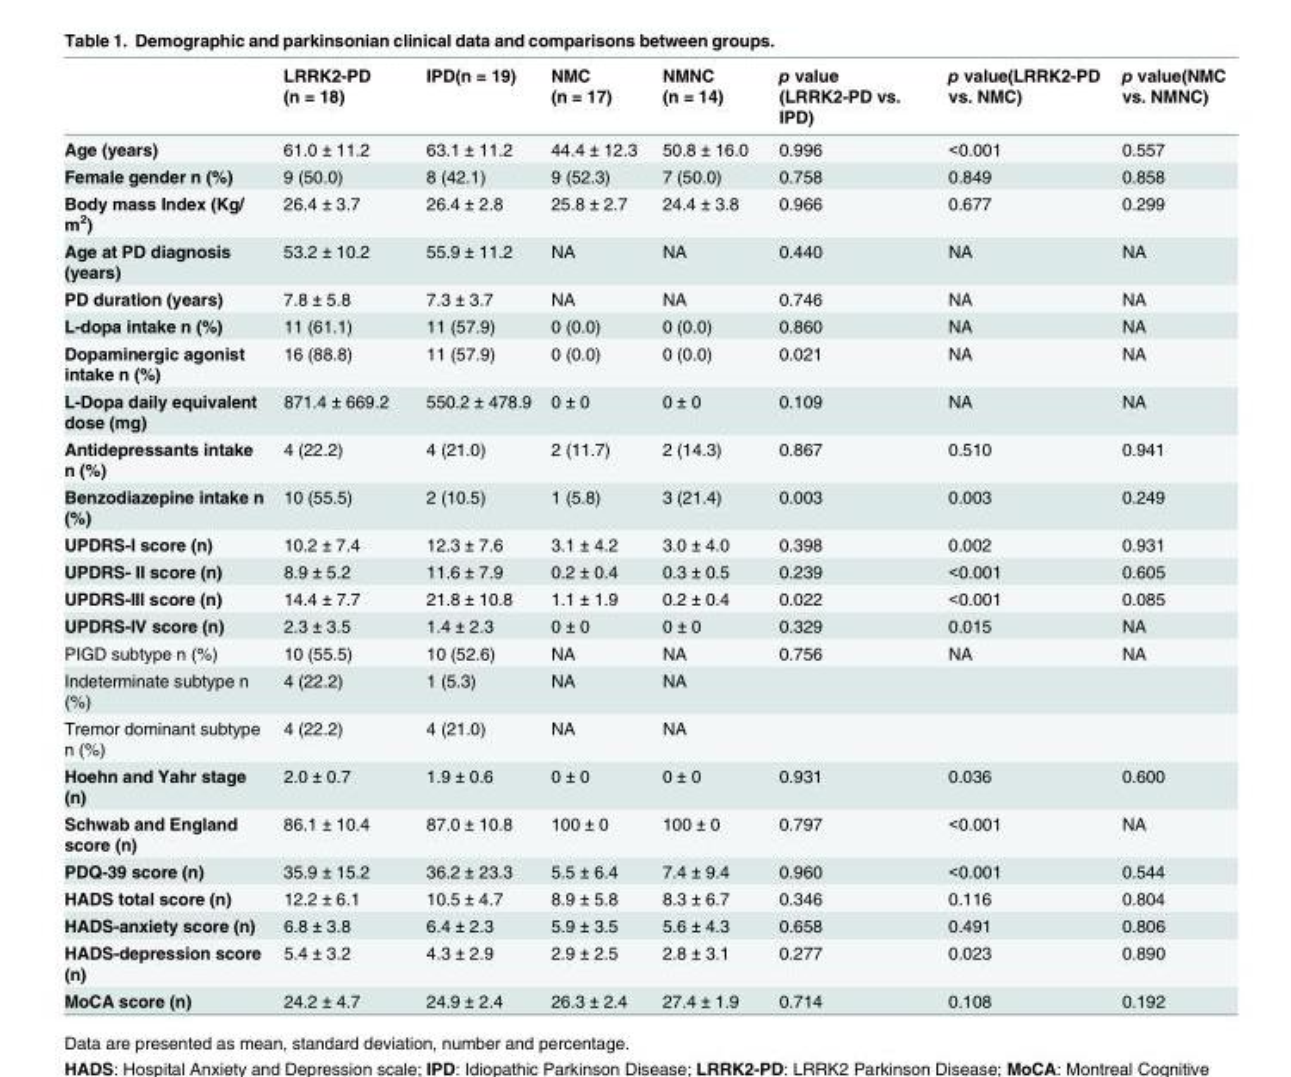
<table><thead><tr><td></td><td>LRRK2-PD (n = 18)</td><td>IPD(n = 19)</td><td>NMC (n = 17)</td><td>NMNC (n = 14)</td><td>p value (LRRK2-PD vs. IPD)</td><td>p value(LRRK2-PD vs. NMC)</td><td>p value(NMC vs. NMNC)</td></tr></thead><tbody><tr><td>Age (years)</td><td>61.0 ± 11.2</td><td>63.1 ± 11.2</td><td>44.4 ± 12.3</td><td>50.8 ± 16.0</td><td>0.996</td><td>&lt;0.001</td><td>0.557</td></tr><tr><td>Female gender n (%)</td><td>9 (50.0)</td><td>8 (42.1)</td><td>9 (52.3)</td><td>7 (50.0)</td><td>0.758</td><td>0.849</td><td>0.858</td></tr><tr><td>Body mass Index (Kg/ m<sup>2</sup>)</td><td>26.4 ± 3.7</td><td>26.4 ± 2.8</td><td>25.8 ± 2.7</td><td>24.4 ± 3.8</td><td>0.966</td><td>0.677</td><td>0.299</td></tr><tr><td>Age at PD diagnosis (years)</td><td>53.2 ± 10.2</td><td>55.9 ± 11.2</td><td>NA</td><td>NA</td><td>0.440</td><td>NA</td><td>NA</td></tr><tr><td>PD duration (years)</td><td>7.8 ± 5.8</td><td>7.3 ± 3.7</td><td>NA</td><td>NA</td><td>0.746</td><td>NA</td><td>NA</td></tr><tr><td>L-dopa intake n (%)</td><td>11 (61.1)</td><td>11 (57.9)</td><td>0 (0.0)</td><td>0 (0.0)</td><td>0.860</td><td>NA</td><td>NA</td></tr><tr><td>Dopaminergic agonist intake n (%)</td><td>16 (88.8)</td><td>11 (57.9)</td><td>0 (0.0)</td><td>0 (0.0)</td><td>0.021</td><td>NA</td><td>NA</td></tr><tr><td>L-Dopa daily equivalent dose (mg)</td><td>871.4 ± 669.2</td><td>550.2 ± 478.9</td><td>0 ± 0</td><td>0 ± 0</td><td>0.109</td><td>NA</td><td>NA</td></tr><tr><td>Antidepressants intake n (%)</td><td>4 (22.2)</td><td>4 (21.0)</td><td>2 (11.7)</td><td>2 (14.3)</td><td>0.867</td><td>0.510</td><td>0.941</td></tr><tr><td>Benzodiazepine intake n (%)</td><td>10 (55.5)</td><td>2 (10.5)</td><td>1 (5.8)</td><td>3 (21.4)</td><td>0.003</td><td>0.003</td><td>0.249</td></tr><tr><td>UPDRS-I score (n)</td><td>10.2 ± 7.4</td><td>12.3 ± 7.6</td><td>3.1 ± 4.2</td><td>3.0 ± 4.0</td><td>0.398</td><td>0.002</td><td>0.931</td></tr><tr><td>UPDRS- II score (n)</td><td>8.9 ± 5.2</td><td>11.6 ± 7.9</td><td>0.2 ± 0.4</td><td>0.3 ± 0.5</td><td>0.239</td><td>&lt;0.001</td><td>0.605</td></tr><tr><td>UPDRS-III score (n)</td><td>14.4 ± 7.7</td><td>21.8 ± 10.8</td><td>1.1 ± 1.9</td><td>0.2 ± 0.4</td><td>0.022</td><td>&lt;0.001</td><td>0.085</td></tr><tr><td>UPDRS-IV score (n)</td><td>2.3 ± 3.5</td><td>1.4 ± 2.3</td><td>0 ± 0</td><td>0 ± 0</td><td>0.329</td><td>0.015</td><td>NA</td></tr><tr><td>PIGD subtype n (%)</td><td>10 (55.5)</td><td>10 (52.6)</td><td>NA</td><td>NA</td><td>0.756</td><td>NA</td><td>NA</td></tr><tr><td>Indeterminate subtype n (%)</td><td>4 (22.2)</td><td>1 (5.3)</td><td>NA</td><td>NA</td><td></td><td></td><td></td></tr><tr><td>Tremor dominant subtype n (%)</td><td>4 (22.2)</td><td>4 (21.0)</td><td>NA</td><td>NA</td><td></td><td></td><td></td></tr><tr><td>Hoehn and Yahr stage (n)</td><td>2.0 ± 0.7</td><td>1.9 ± 0.6</td><td>0 ± 0</td><td>0 ± 0</td><td>0.931</td><td>0.036</td><td>0.600</td></tr><tr><td>Schwab and England score (n)</td><td>86.1 ± 10.4</td><td>87.0 ± 10.8</td><td>100 ± 0</td><td>100 ± 0</td><td>0.797</td><td>&lt;0.001</td><td>NA</td></tr><tr><td>PDQ-39 score (n)</td><td>35.9 ± 15.2</td><td>36.2 ± 23.3</td><td>5.5 ± 6.4</td><td>7.4 ± 9.4</td><td>0.960</td><td>&lt;0.001</td><td>0.544</td></tr><tr><td>HADS total score (n)</td><td>12.2 ± 6.1</td><td>10.5 ± 4.7</td><td>8.9 ± 5.8</td><td>8.3 ± 6.7</td><td>0.346</td><td>0.116</td><td>0.804</td></tr><tr><td>HADS-anxiety score (n)</td><td>6.8 ± 3.8</td><td>6.4 ± 2.3</td><td>5.9 ± 3.5</td><td>5.6 ± 4.3</td><td>0.658</td><td>0.491</td><td>0.806</td></tr><tr><td>HADS-depression score (n)</td><td>5.4 ± 3.2</td><td>4.3 ± 2.9</td><td>2.9 ± 2.5</td><td>2.8 ± 3.1</td><td>0.277</td><td>0.023</td><td>0.890</td></tr><tr><td>MoCA score (n)</td><td>24.2 ± 4.7</td><td>24.9 ± 2.4</td><td>26.3 ± 2.4</td><td>27.4 ± 1.9</td><td>0.714</td><td>0.108</td><td>0.192</td></tr></tbody></table>